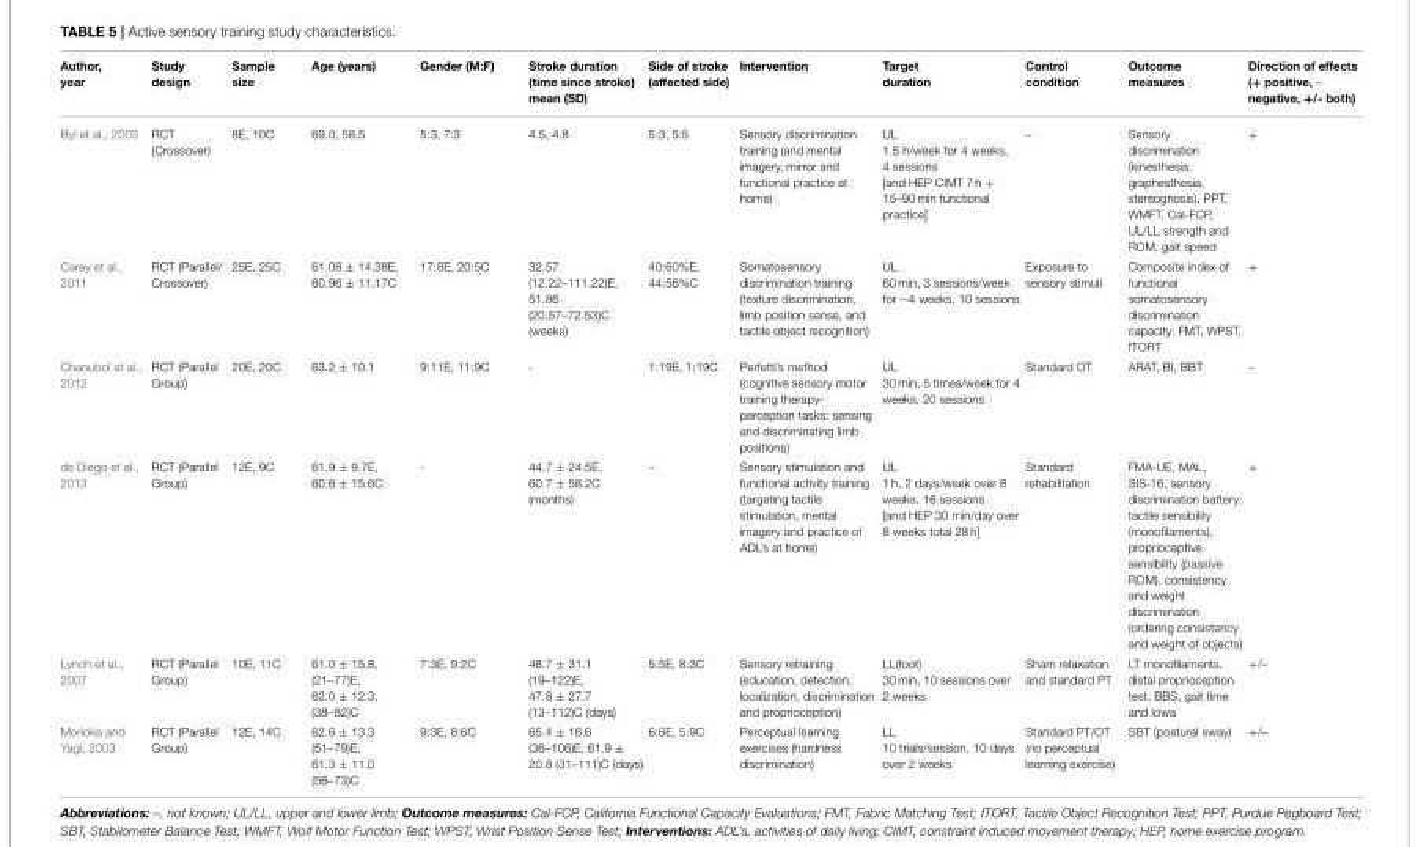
<table><thead><tr><td>Author, year</td><td>Study design</td><td>Sample size</td><td>Age (years)</td><td>Gender (M:F)</td><td>Stroke duration (time since stroke) mean (SD)</td><td>Side of stroke (affected side)</td><td>Intervention</td><td>Target duration</td><td>Control condition</td><td>Outcome measures</td><td>Direction of effects (+ positive, – negative, +/- both)</td></tr></thead><tbody><tr><td>Byl et al., 2003</td><td>RCT (Crossover)</td><td>8E, 10C</td><td>69.0, 58.5</td><td>5:3, 7:3</td><td>4.5, 4.8</td><td>5:3, 5:5</td><td>Sensory discrimination training (and mental imagery, mirror and functional practice at home)</td><td>UL 1.5 h/week for 4 weeks, 4 sessions [and HEP CIMT 7 h + 15–90 min functional practice]</td><td>–</td><td>Sensory discrimination (kinesthesia, graphesthesia, stereognosis), PPT, WMFT, Cal-FCP, UL/LL strength and ROM, gait speed</td><td>+</td></tr><tr><td>Carey et al., 2011</td><td>RCT (Parallel/ Crossover)</td><td>25E, 25C</td><td>61.08 ± 14.38E, 60.96 ± 11.17C</td><td>17:8E, 20:5C</td><td>32.57 (12.22–111.22)E, 51.86 (20.57–72.53)C (weeks)</td><td>40:60%E, 44:56%C</td><td>Somatosensory discrimination training (texture discrimination, limb position sense, and tactile object recognition)</td><td>UL 60 min, 3 sessions/week for ∼4 weeks, 10 sessions</td><td>Exposure to sensory stimuli</td><td>Composite index of functional somatosensory discrimination capacity: FMT, WPST, fTORT</td><td>+</td></tr><tr><td>Chanubol et al., 2012</td><td>RCT (Parallel Group)</td><td>20E, 20C</td><td>63.2 ± 10.1</td><td>9:11E, 11:9C</td><td>-</td><td>1:19E, 1:19C</td><td>Perfetti’s method (cognitive sensory motor training therapy- perception tasks: sensing and discriminating limb positions)</td><td>UL 30 min, 5 times/week for 4 weeks, 20 sessions</td><td>Standard OT</td><td>ARAT, BI, BBT</td><td>–</td></tr><tr><td>de Diego et al., 2013</td><td>RCT (Parallel Group)</td><td>12E, 9C</td><td>61.9 ± 9.7E, 60.6 ± 15.6C</td><td>-</td><td>44.7 ± 24.5E, 60.7 ± 58.2C (months)</td><td>–</td><td>Sensory stimulation and functional activity training (targeting tactile stimulation, mental imagery and practice of ADL’s at home)</td><td>UL 1 h, 2 days/week over 8 weeks, 16 sessions [and HEP 30 min/day over 8 weeks total 28 h]</td><td>Standard rehabilitation</td><td>FMA-UE, MAL, SIS-16, sensory discrimination battery: tactile sensibility (monofilaments), proprioceptive sensibility (passive ROM), consistency and weight discrimination (ordering consistency and weight of objects)</td><td>+</td></tr><tr><td>Lynch et al., 2007</td><td>RCT (Parallel Group)</td><td>10E, 11C</td><td>61.0 ± 15.8, (21–77)E, 62.0 ± 12.3, (38–82)C</td><td>7:3E, 9:2C</td><td>48.7 ± 31.1 (19–122)E, 47.8 ± 27.7 (13–112)C (days)</td><td>5:5E, 8:3C</td><td>Sensory retraining (education, detection, localization, discrimination and proprioception)</td><td>LL(foot) 30 min, 10 sessions over 2 weeks</td><td>Sham relaxation and standard PT</td><td>LT monofilaments, distal proprioception test, BBS, gait time and Iowa</td><td>+/–</td></tr><tr><td>Morioka and Yagi, 2003</td><td>RCT (Parallel Group)</td><td>12E, 14C</td><td>62.6 ± 13.3 (51–79)E, 61.3 ± 11.0 (56–73)C</td><td>9:3E, 8:6C</td><td>65.4 ± 18.6 (36–106)E, 61.9 ± 20.8 (31–111)C (days)</td><td>6:6E, 5:9C</td><td>Perceptual learning exercises (hardness discrimination)</td><td>LL 10 trials/session, 10 days over 2 weeks</td><td>Standard PT/OT (no perceptual learning exercise)</td><td>SBT (postural sway)</td><td>+/–</td></tr></tbody></table>